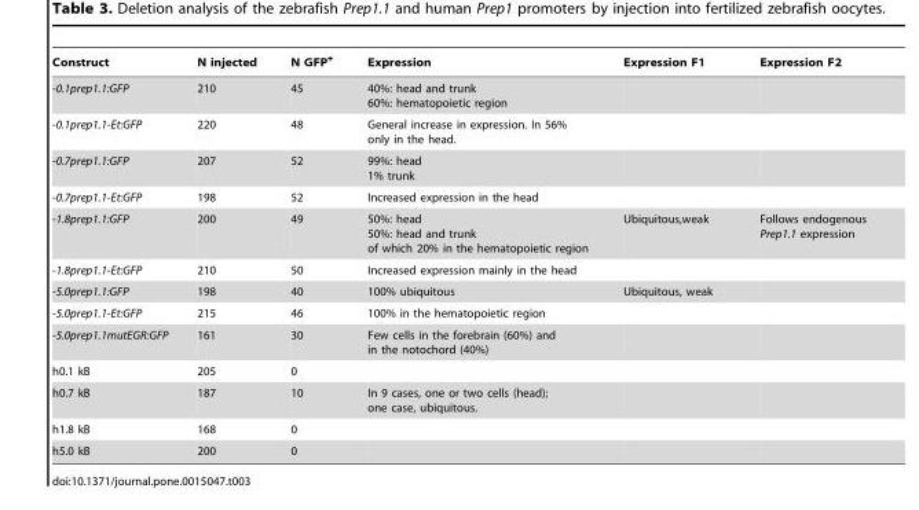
<table><thead><tr><td>Construct</td><td>N injected</td><td>N GFP<sup>+</sup></td><td>Expression</td><td>Expression F1</td><td>Expression F2</td></tr></thead><tbody><tr><td>-0.1prep1.1:GFP</td><td>210</td><td>45</td><td>40%: head and trunk 60%: hematopoietic region</td><td></td><td></td></tr><tr><td>-0.1prep1.1-Et:GFP</td><td>220</td><td>48</td><td>General increase in expression. In 56% only in the head.</td><td></td><td></td></tr><tr><td>-0.7prep1.1:GFP</td><td>207</td><td>52</td><td>99%: head 1% trunk</td><td></td><td></td></tr><tr><td>-0.7prep1.1-Et:GFP</td><td>198</td><td>52</td><td>Increased expression in the head</td><td></td><td></td></tr><tr><td>-1.8prep1.1:GFP</td><td>200</td><td>49</td><td>50%: head 50%: head and trunk of which 20% in the hematopoietic region</td><td>Ubiquitous,weak</td><td>Follows endogenous Prep1.1 expression</td></tr><tr><td>-1.8prep1.1-Et:GFP</td><td>210</td><td>50</td><td>Increased expression mainly in the head</td><td></td><td></td></tr><tr><td>-5.0prep1.1:GFP</td><td>198</td><td>40</td><td>100% ubiquitous</td><td>Ubiquitous, weak</td><td></td></tr><tr><td>-5.0prep1.1-Et:GFP</td><td>215</td><td>46</td><td>100% in the hematopoietic region</td><td></td><td></td></tr><tr><td>-5.0prep1.1mutEGR:GFP</td><td>161</td><td>30</td><td>Few cells in the forebrain (60%) and in the notochord (40%)</td><td></td><td></td></tr><tr><td>h0.1 kB</td><td>205</td><td>0</td><td></td><td></td><td></td></tr><tr><td>h0.7 kB</td><td>187</td><td>10</td><td>In 9 cases, one or two cells (head); one case, ubiquitous.</td><td></td><td></td></tr><tr><td>h1.8 kB</td><td>168</td><td>0</td><td></td><td></td><td></td></tr><tr><td>h5.0 kB</td><td>200</td><td>0</td><td></td><td></td><td></td></tr></tbody></table>